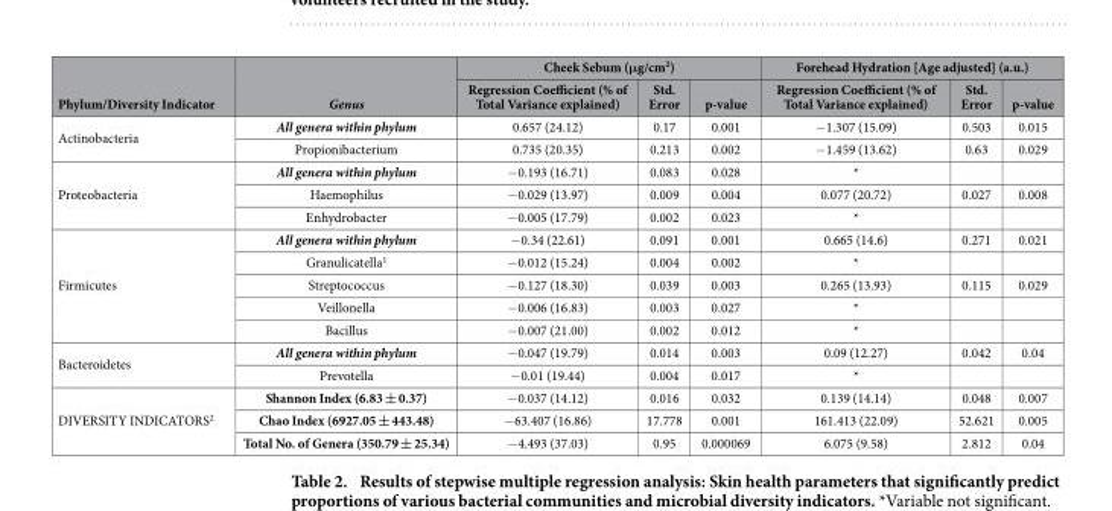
<table><thead><tr><td rowspan="2">Phylum/Diversity Indicator</td><td rowspan="2">Genus</td><td colspan="3">Cheek Sebum (μg/cm<sup>2</sup>)</td><td colspan="3">Forehead Hydration [Age adjusted] (a.u.)</td></tr><tr><td>Regression Coefficient (% of Total Variance explained)</td><td>Std. Error</td><td>p-value</td><td>Regression Coefficient (% of Total Variance explained)</td><td>Std. Error</td><td>p-value</td></tr></thead><tbody><tr><td rowspan="2">Actinobacteria</td><td>All genera within phylum</td><td>0.657 (24.12)</td><td>0.17</td><td>0.001</td><td>− 1.307 (15.09)</td><td>0.503</td><td>0.015</td></tr><tr><td>Propionibacterium</td><td>0.735 (20.35)</td><td>0.213</td><td>0.002</td><td>− 1.459 (13.62)</td><td>0.63</td><td>0.029</td></tr><tr><td rowspan="3">Proteobacteria</td><td>All genera within phylum</td><td>− 0.193 (16.71)</td><td>0.083</td><td>0.028</td><td>*</td><td></td><td></td></tr><tr><td>Haemophilus</td><td>− 0.029 (13.97)</td><td>0.009</td><td>0.004</td><td>0.077 (20.72)</td><td>0.027</td><td>0.008</td></tr><tr><td>Enhydrobacter</td><td>− 0.005 (17.79)</td><td>0.002</td><td>0.023</td><td>*</td><td></td><td></td></tr><tr><td rowspan="5">Firmicutes</td><td>All genera within phylum</td><td>− 0.34 (22.61)</td><td>0.091</td><td>0.001</td><td>0.665 (14.6)</td><td>0.271</td><td>0.021</td></tr><tr><td>Granulicatella<sup>1</sup></td><td>− 0.012 (15.24)</td><td>0.004</td><td>0.002</td><td>*</td><td></td><td></td></tr><tr><td>Streptococcus</td><td>− 0.127 (18.30)</td><td>0.039</td><td>0.003</td><td>0.265 (13.93)</td><td>0.115</td><td>0.029</td></tr><tr><td>Veillonella</td><td>− 0.006 (16.83)</td><td>0.003</td><td>0.027</td><td>*</td><td></td><td></td></tr><tr><td>Bacillus</td><td>− 0.007 (21.00)</td><td>0.002</td><td>0.012</td><td>*</td><td></td><td></td></tr><tr><td rowspan="2">Bacteroidetes</td><td>All genera within phylum</td><td>− 0.047 (19.79)</td><td>0.014</td><td>0.003</td><td>0.09 (12.27)</td><td>0.042</td><td>0.04</td></tr><tr><td>Prevotella</td><td>− 0.01 (19.44)</td><td>0.004</td><td>0.017</td><td>*</td><td></td><td></td></tr><tr><td rowspan="3">DIVERSITY INDICATORS<sup>2</sup></td><td>Shannon Index (6.83 ± 0.37)</td><td>− 0.037 (14.12)</td><td>0.016</td><td>0.032</td><td>0.139 (14.14)</td><td>0.048</td><td>0.007</td></tr><tr><td>Chao Index (6927.05 ± 443.48)</td><td>− 63.407 (16.86)</td><td>17.778</td><td>0.001</td><td>161.413 (22.09)</td><td>52.621</td><td>0.005</td></tr><tr><td>Total No. of Genera (350.79 ± 25.34)</td><td>− 4.493 (37.03)</td><td>0.95</td><td>0.000069</td><td>6.075 (9.58)</td><td>2.812</td><td>0.04</td></tr></tbody></table>